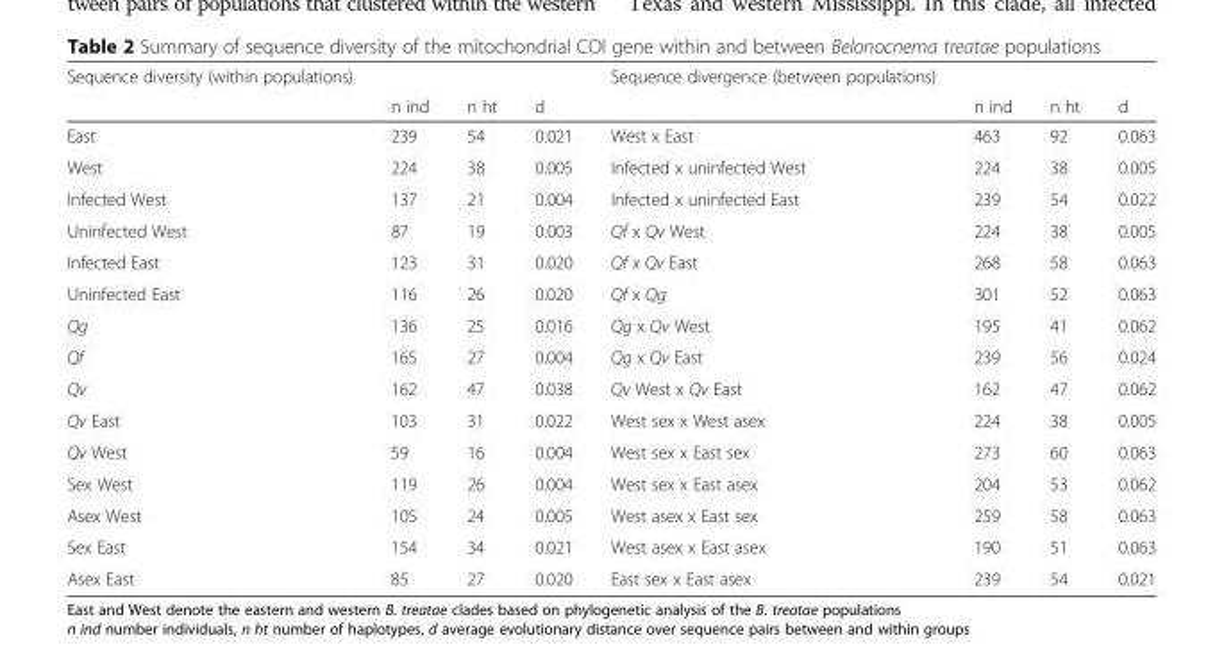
<table><thead><tr><td rowspan="2">Sequence diversity (within populations)</td><td rowspan="2">n ind</td><td rowspan="2">n ht</td><td rowspan="2">d</td><td rowspan="2">Sequence divergence (between populations)</td><td rowspan="2">n ind</td><td rowspan="2">n ht</td><td rowspan="2">d</td></tr><tr></tr></thead><tbody><tr><td>East</td><td>239</td><td>54</td><td>0.021</td><td>West x East</td><td>463</td><td>92</td><td>0.063</td></tr><tr><td>West</td><td>224</td><td>38</td><td>0.005</td><td>Infected x uninfected West</td><td>224</td><td>38</td><td>0.005</td></tr><tr><td>Infected West</td><td>137</td><td>21</td><td>0.004</td><td>Infected x uninfected East</td><td>239</td><td>54</td><td>0.022</td></tr><tr><td>Uninfected West</td><td>87</td><td>19</td><td>0.003</td><td>Qf x Qv West</td><td>224</td><td>38</td><td>0.005</td></tr><tr><td>Infected East</td><td>123</td><td>31</td><td>0.020</td><td>Qf x Qv East</td><td>268</td><td>58</td><td>0.063</td></tr><tr><td>Uninfected East</td><td>116</td><td>26</td><td>0.020</td><td>Qf x Qg</td><td>301</td><td>52</td><td>0.063</td></tr><tr><td>Qg</td><td>136</td><td>25</td><td>0.016</td><td>Qg x Qv West</td><td>195</td><td>41</td><td>0.062</td></tr><tr><td>Qf</td><td>165</td><td>27</td><td>0.004</td><td>Qg x Qv East</td><td>239</td><td>56</td><td>0.024</td></tr><tr><td>Qv</td><td>162</td><td>47</td><td>0.038</td><td>Qv West x Qv East</td><td>162</td><td>47</td><td>0.062</td></tr><tr><td>Qv East</td><td>103</td><td>31</td><td>0.022</td><td>West sex x West asex</td><td>224</td><td>38</td><td>0.005</td></tr><tr><td>Qv West</td><td>59</td><td>16</td><td>0.004</td><td>West sex x East sex</td><td>273</td><td>60</td><td>0.063</td></tr><tr><td>Sex West</td><td>119</td><td>26</td><td>0.004</td><td>West sex x East asex</td><td>204</td><td>53</td><td>0.062</td></tr><tr><td>Asex West</td><td>105</td><td>24</td><td>0.005</td><td>West asex x East sex</td><td>259</td><td>58</td><td>0.063</td></tr><tr><td>Sex East</td><td>154</td><td>34</td><td>0.021</td><td>West asex x East asex</td><td>190</td><td>51</td><td>0.063</td></tr><tr><td>Asex East</td><td>85</td><td>27</td><td>0.020</td><td>East sex x East asex</td><td>239</td><td>54</td><td>0.021</td></tr></tbody></table>